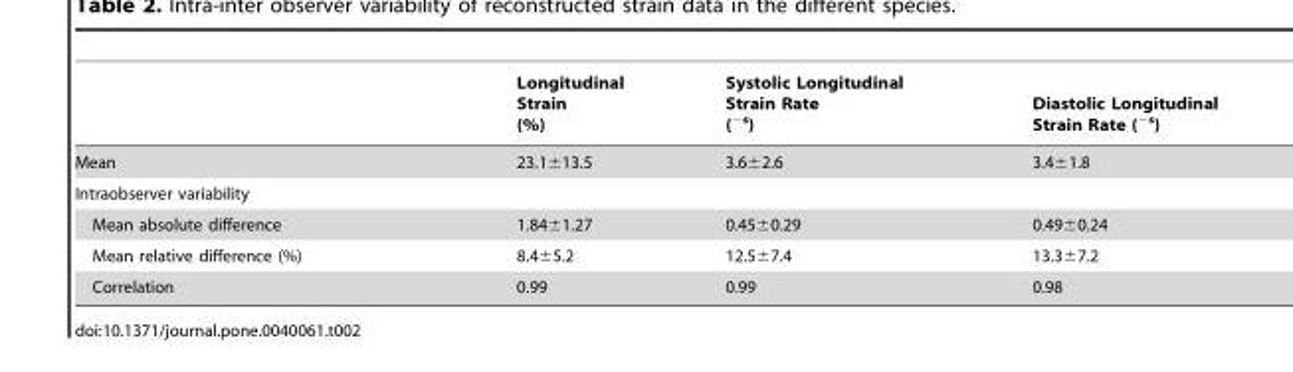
<table><thead><tr><td></td><td>Longitudinal Strain (%)</td><td>Systolic Longitudinal Strain Rate (<sup>−s</sup>)</td><td>Diastolic Longitudinal Strain Rate (<sup>−s</sup>)</td></tr></thead><tbody><tr><td>Mean</td><td>23.1±13.5</td><td>3.6±2.6</td><td>3.4±1.8</td></tr><tr><td colspan="4">Intraobserver variability</td></tr><tr><td>Mean absolute difference</td><td>1.84±1.27</td><td>0.45±0.29</td><td>0.49±0.24</td></tr><tr><td>Mean relative difference (%)</td><td>8.4±5.2</td><td>12.5±7.4</td><td>13.3±7.2</td></tr><tr><td>Correlation</td><td>0.99</td><td>0.99</td><td>0.98</td></tr></tbody></table>